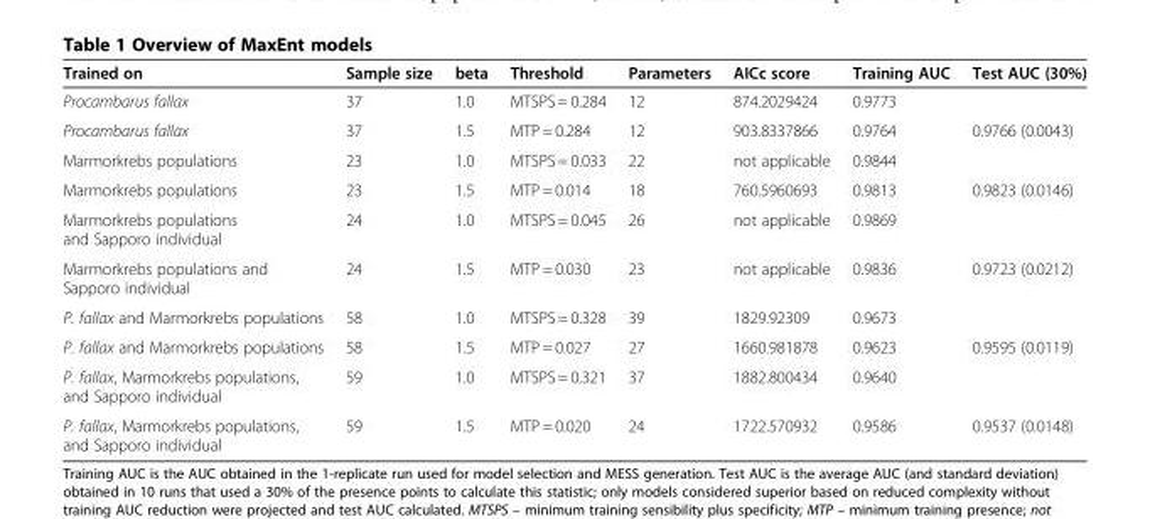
<table><thead><tr><td>Trained on</td><td>Sample size</td><td>beta</td><td>Threshold</td><td>Parameters</td><td>AICc score</td><td>Training AUC</td><td>Test AUC (30%)</td></tr></thead><tbody><tr><td>Procambarus fallax</td><td>37</td><td>1.0</td><td>MTSPS = 0.284</td><td>12</td><td>874.2029424</td><td>0.9773</td><td></td></tr><tr><td>Procambarus fallax</td><td>37</td><td>1.5</td><td>MTP = 0.284</td><td>12</td><td>903.8337866</td><td>0.9764</td><td>0.9766 (0.0043)</td></tr><tr><td>Marmorkrebs populations</td><td>23</td><td>1.0</td><td>MTSPS = 0.033</td><td>22</td><td>not applicable</td><td>0.9844</td><td></td></tr><tr><td>Marmorkrebs populations</td><td>23</td><td>1.5</td><td>MTP = 0.014</td><td>18</td><td>760.5960693</td><td>0.9813</td><td>0.9823 (0.0146)</td></tr><tr><td>Marmorkrebs populations and Sapporo individual</td><td>24</td><td>1.0</td><td>MTSPS = 0.045</td><td>26</td><td>not applicable</td><td>0.9869</td><td></td></tr><tr><td>Marmorkrebs populations and Sapporo individual</td><td>24</td><td>1.5</td><td>MTP = 0.030</td><td>23</td><td>not applicable</td><td>0.9836</td><td>0.9723 (0.0212)</td></tr><tr><td>P. fallax and Marmorkrebs populations</td><td>58</td><td>1.0</td><td>MTSPS = 0.328</td><td>39</td><td>1829.92309</td><td>0.9673</td><td></td></tr><tr><td>P. fallax and Marmorkrebs populations</td><td>58</td><td>1.5</td><td>MTP = 0.027</td><td>27</td><td>1660.981878</td><td>0.9623</td><td>0.9595 (0.0119)</td></tr><tr><td>P. fallax, Marmorkrebs populations, and Sapporo individual</td><td>59</td><td>1.0</td><td>MTSPS = 0.321</td><td>37</td><td>1882.800434</td><td>0.9640</td><td></td></tr><tr><td>P. fallax, Marmorkrebs populations, and Sapporo individual</td><td>59</td><td>1.5</td><td>MTP = 0.020</td><td>24</td><td>1722.570932</td><td>0.9586</td><td>0.9537 (0.0148)</td></tr></tbody></table>